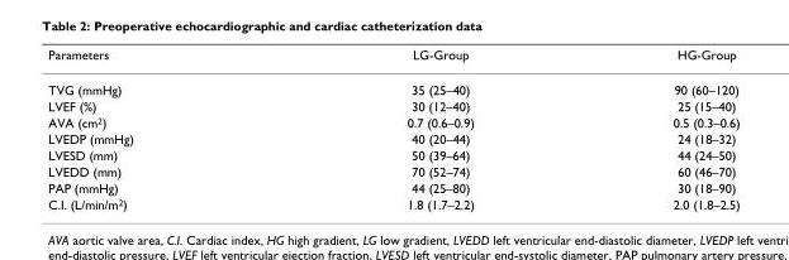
<table><thead><tr><td>Parameters</td><td>LG-Group</td><td>HG-Group</td></tr></thead><tbody><tr><td>TVG (mmHg)</td><td>35 (25–40)</td><td>90 (60–120)</td></tr><tr><td>LVEF (%)</td><td>30 (12–40)</td><td>25 (15–40)</td></tr><tr><td>AVA (cm<sup>2</sup>)</td><td>0.7 (0.6–0.9)</td><td>0.5 (0.3–0.6)</td></tr><tr><td>LVEDP (mmHg)</td><td>40 (20–44)</td><td>24 (18–32)</td></tr><tr><td>LVESD (mm)</td><td>50 (39–64)</td><td>44 (24–50)</td></tr><tr><td>LVEDD (mm)</td><td>70 (52–74)</td><td>60 (46–70)</td></tr><tr><td>PAP (mmHg)</td><td>44 (25–80)</td><td>30 (18–90)</td></tr><tr><td>C.I. (L/min/m<sup>2</sup>)</td><td>1.8 (1.7–2.2)</td><td>2.0 (1.8–2.5)</td></tr></tbody></table>